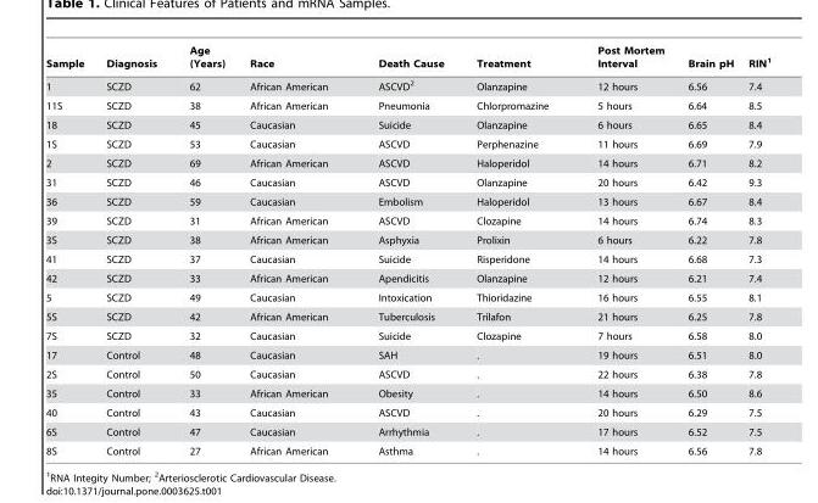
<table><thead><tr><td>Sample</td><td>Diagnosis</td><td>Age (Years)</td><td>Race</td><td>Death Cause</td><td>Treatment</td><td>Post Mortem Interval</td><td>Brain pH</td><td>RIN<sup>1</sup></td></tr></thead><tbody><tr><td>1</td><td>SCZD</td><td>62</td><td>African American</td><td>ASCVD<sup>2</sup></td><td>Olanzapine</td><td>12 hours</td><td>6.56</td><td>7.4</td></tr><tr><td>11S</td><td>SCZD</td><td>38</td><td>African American</td><td>Pneumonia</td><td>Chlorpromazine</td><td>5 hours</td><td>6.64</td><td>8.5</td></tr><tr><td>18</td><td>SCZD</td><td>45</td><td>Caucasian</td><td>Suicide</td><td>Olanzapine</td><td>6 hours</td><td>6.65</td><td>8.4</td></tr><tr><td>1S</td><td>SCZD</td><td>53</td><td>Caucasian</td><td>ASCVD</td><td>Perphenazine</td><td>11 hours</td><td>6.69</td><td>7.9</td></tr><tr><td>2</td><td>SCZD</td><td>69</td><td>African American</td><td>ASCVD</td><td>Haloperidol</td><td>14 hours</td><td>6.71</td><td>8.2</td></tr><tr><td>31</td><td>SCZD</td><td>46</td><td>Caucasian</td><td>ASCVD</td><td>Olanzapine</td><td>20 hours</td><td>6.42</td><td>9.3</td></tr><tr><td>36</td><td>SCZD</td><td>59</td><td>Caucasian</td><td>Embolism</td><td>Haloperidol</td><td>13 hours</td><td>6.67</td><td>8.4</td></tr><tr><td>39</td><td>SCZD</td><td>31</td><td>African American</td><td>ASCVD</td><td>Clozapine</td><td>14 hours</td><td>6.74</td><td>8.3</td></tr><tr><td>3S</td><td>SCZD</td><td>38</td><td>African American</td><td>Asphyxia</td><td>Prolixin</td><td>6 hours</td><td>6.22</td><td>7.8</td></tr><tr><td>41</td><td>SCZD</td><td>37</td><td>Caucasian</td><td>Suicide</td><td>Risperidone</td><td>14 hours</td><td>6.68</td><td>7.3</td></tr><tr><td>42</td><td>SCZD</td><td>33</td><td>African American</td><td>Apendicitis</td><td>Olanzapine</td><td>12 hours</td><td>6.21</td><td>7.4</td></tr><tr><td>5</td><td>SCZD</td><td>49</td><td>Caucasian</td><td>Intoxication</td><td>Thioridazine</td><td>16 hours</td><td>6.55</td><td>8.1</td></tr><tr><td>5S</td><td>SCZD</td><td>42</td><td>African American</td><td>Tuberculosis</td><td>Trilafon</td><td>21 hours</td><td>6.25</td><td>7.8</td></tr><tr><td>7S</td><td>SCZD</td><td>32</td><td>Caucasian</td><td>Suicide</td><td>Clozapine</td><td>7 hours</td><td>6.58</td><td>8.0</td></tr><tr><td>17</td><td>Control</td><td>48</td><td>Caucasian</td><td>SAH</td><td>.</td><td>19 hours</td><td>6.51</td><td>8.0</td></tr><tr><td>2S</td><td>Control</td><td>50</td><td>Caucasian</td><td>ASCVD</td><td>.</td><td>22 hours</td><td>6.38</td><td>7.8</td></tr><tr><td>35</td><td>Control</td><td>33</td><td>African American</td><td>Obesity</td><td>.</td><td>14 hours</td><td>6.50</td><td>8.6</td></tr><tr><td>40</td><td>Control</td><td>43</td><td>Caucasian</td><td>ASCVD</td><td>.</td><td>20 hours</td><td>6.29</td><td>7.5</td></tr><tr><td>6S</td><td>Control</td><td>47</td><td>Caucasian</td><td>Arrhythmia</td><td>.</td><td>17 hours</td><td>6.52</td><td>7.5</td></tr><tr><td>8S</td><td>Control</td><td>27</td><td>African American</td><td>Asthma</td><td>.</td><td>14 hours</td><td>6.56</td><td>7.8</td></tr></tbody></table>